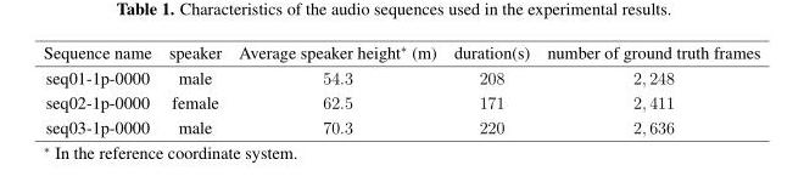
<table><thead><tr><td>Sequence name</td><td>speaker</td><td>Average speaker height∗ (m)</td><td>duration(s)</td><td>number of ground truth frames</td></tr></thead><tbody><tr><td>seq01-1p-0000</td><td>male</td><td>54.3</td><td>208</td><td>2, 248</td></tr><tr><td>seq02-1p-0000</td><td>female</td><td>62.5</td><td>171</td><td>2, 411</td></tr><tr><td>seq03-1p-0000</td><td>male</td><td>70.3</td><td>220</td><td>2, 636</td></tr></tbody></table>